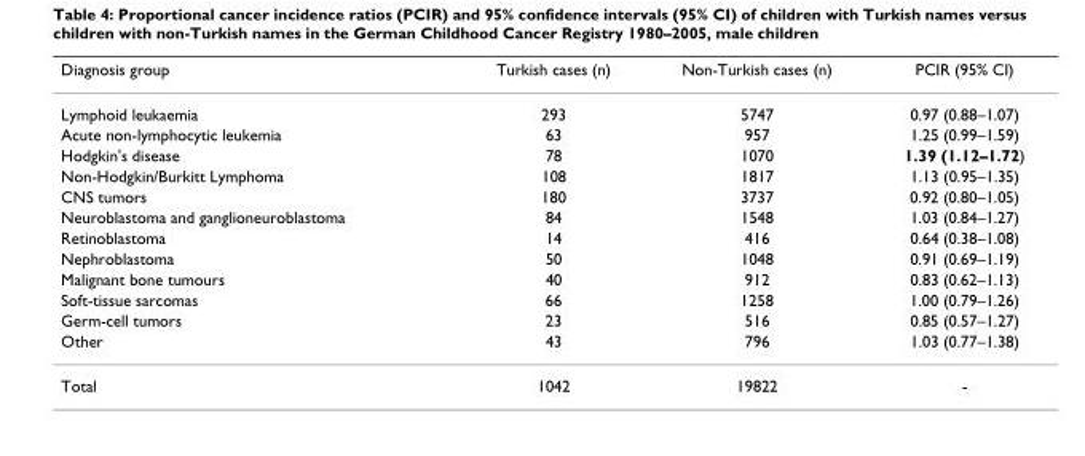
<table><thead><tr><td>Diagnosis group</td><td>Turkish cases (n)</td><td>Non-Turkish cases (n)</td><td>PCIR (95% CI)</td></tr></thead><tbody><tr><td>Lymphoid leukaemia</td><td>293</td><td>5747</td><td>0.97 (0.88–1.07)</td></tr><tr><td>Acute non-lymphocytic leukemia</td><td>63</td><td>957</td><td>1.25 (0.99–1.59)</td></tr><tr><td>Hodgkin&#x27;s disease</td><td>78</td><td>1070</td><td>1.39 (1.12–1.72)</td></tr><tr><td>Non-Hodgkin/Burkitt Lymphoma</td><td>108</td><td>1817</td><td>1.13 (0.95–1.35)</td></tr><tr><td>CNS tumors</td><td>180</td><td>3737</td><td>0.92 (0.80–1.05)</td></tr><tr><td>Neuroblastoma and ganglioneuroblastoma</td><td>84</td><td>1548</td><td>1.03 (0.84–1.27)</td></tr><tr><td>Retinoblastoma</td><td>14</td><td>416</td><td>0.64 (0.38–1.08)</td></tr><tr><td>Nephroblastoma</td><td>50</td><td>1048</td><td>0.91 (0.69–1.19)</td></tr><tr><td>Malignant bone tumours</td><td>40</td><td>912</td><td>0.83 (0.62–1.13)</td></tr><tr><td>Soft-tissue sarcomas</td><td>66</td><td>1258</td><td>1.00 (0.79–1.26)</td></tr><tr><td>Germ-cell tumors</td><td>23</td><td>516</td><td>0.85 (0.57–1.27)</td></tr><tr><td>Other</td><td>43</td><td>796</td><td>1.03 (0.77–1.38)</td></tr><tr><td>Total</td><td>1042</td><td>19822</td><td>-</td></tr></tbody></table>